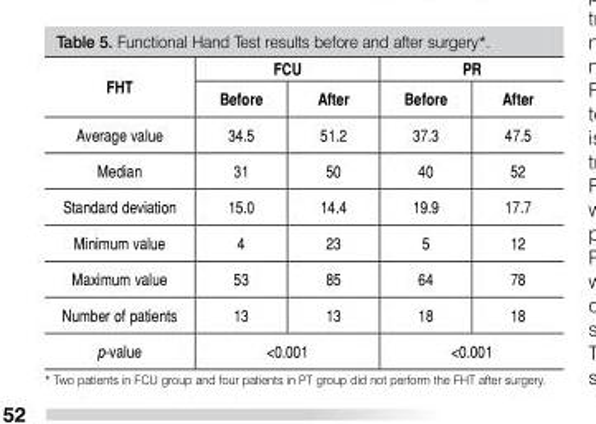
<table><thead><tr><td rowspan="2">FHT</td><td colspan="2">FCU</td><td colspan="2">PR</td></tr><tr><td>Before</td><td>After</td><td>Before</td><td>After</td></tr></thead><tbody><tr><td>Average value</td><td>34.5</td><td>51.2</td><td>37.3</td><td>47.5</td></tr><tr><td>Median</td><td>31</td><td>50</td><td>40</td><td>52</td></tr><tr><td>Standard deviation</td><td>15.0</td><td>14.4</td><td>19.9</td><td>17.7</td></tr><tr><td>Minimum value</td><td>4</td><td>23</td><td>5</td><td>12</td></tr><tr><td>Maximum value</td><td>53</td><td>85</td><td>64</td><td>78</td></tr><tr><td>Number of patients</td><td>13</td><td>13</td><td>18</td><td>18</td></tr><tr><td>p-value</td><td colspan="2">&lt;0.001</td><td colspan="2">&lt;0.001</td></tr></tbody></table>